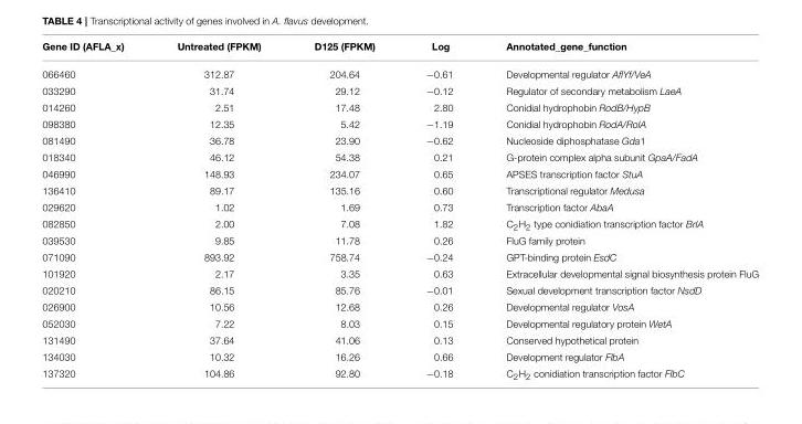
<table><thead><tr><td>Gene ID (AFLA_x)</td><td>Untreated (FPKM)</td><td>D125 (FPKM)</td><td>Log</td><td>Annotated_gene_function</td></tr></thead><tbody><tr><td>066460</td><td>312.87</td><td>204.64</td><td>−0.61</td><td>Developmental regulator AflYf/VeA</td></tr><tr><td>033290</td><td>31.74</td><td>29.12</td><td>−0.12</td><td>Regulator of secondary metabolism LaeA</td></tr><tr><td>014260</td><td>2.51</td><td>17.48</td><td>2.80</td><td>Conidial hydrophobin RodB/HypB</td></tr><tr><td>098380</td><td>12.35</td><td>5.42</td><td>−1.19</td><td>Conidial hydrophobin RodA/RolA</td></tr><tr><td>081490</td><td>36.78</td><td>23.90</td><td>−0.62</td><td>Nucleoside diphosphatase Gda1</td></tr><tr><td>018340</td><td>46.12</td><td>54.38</td><td>0.21</td><td>G-protein complex alpha subunit GpaA/FadA</td></tr><tr><td>046990</td><td>148.93</td><td>234.07</td><td>0.65</td><td>APSES transcription factor StuA</td></tr><tr><td>136410</td><td>89.17</td><td>135.16</td><td>0.60</td><td>Transcriptional regulator Medusa</td></tr><tr><td>029620</td><td>1.02</td><td>1.69</td><td>0.73</td><td>Transcription factor AbaA</td></tr><tr><td>082850</td><td>2.00</td><td>7.08</td><td>1.82</td><td>C<sub>2</sub>H<sub>2</sub> type conidiation transcription factor BrlA</td></tr><tr><td>039530</td><td>9.85</td><td>11.78</td><td>0.26</td><td>FluG family protein</td></tr><tr><td>071090</td><td>893.92</td><td>758.74</td><td>−0.24</td><td>GPT-binding protein EsdC</td></tr><tr><td>101920</td><td>2.17</td><td>3.35</td><td>0.63</td><td>Extracellular developmental signal biosynthesis protein FluG</td></tr><tr><td>020210</td><td>86.15</td><td>85.76</td><td>−0.01</td><td>Sexual development transcription factor NsdD</td></tr><tr><td>026900</td><td>10.56</td><td>12.68</td><td>0.26</td><td>Developmental regulator VosA</td></tr><tr><td>052030</td><td>7.22</td><td>8.03</td><td>0.15</td><td>Developmental regulatory protein WetA</td></tr><tr><td>131490</td><td>37.64</td><td>41.06</td><td>0.13</td><td>Conserved hypothetical protein</td></tr><tr><td>134030</td><td>10.32</td><td>16.26</td><td>0.66</td><td>Development regulator FlbA</td></tr><tr><td>137320</td><td>104.86</td><td>92.80</td><td>−0.18</td><td>C<sub>2</sub>H<sub>2</sub> conidiation transcription factor FlbC</td></tr></tbody></table>